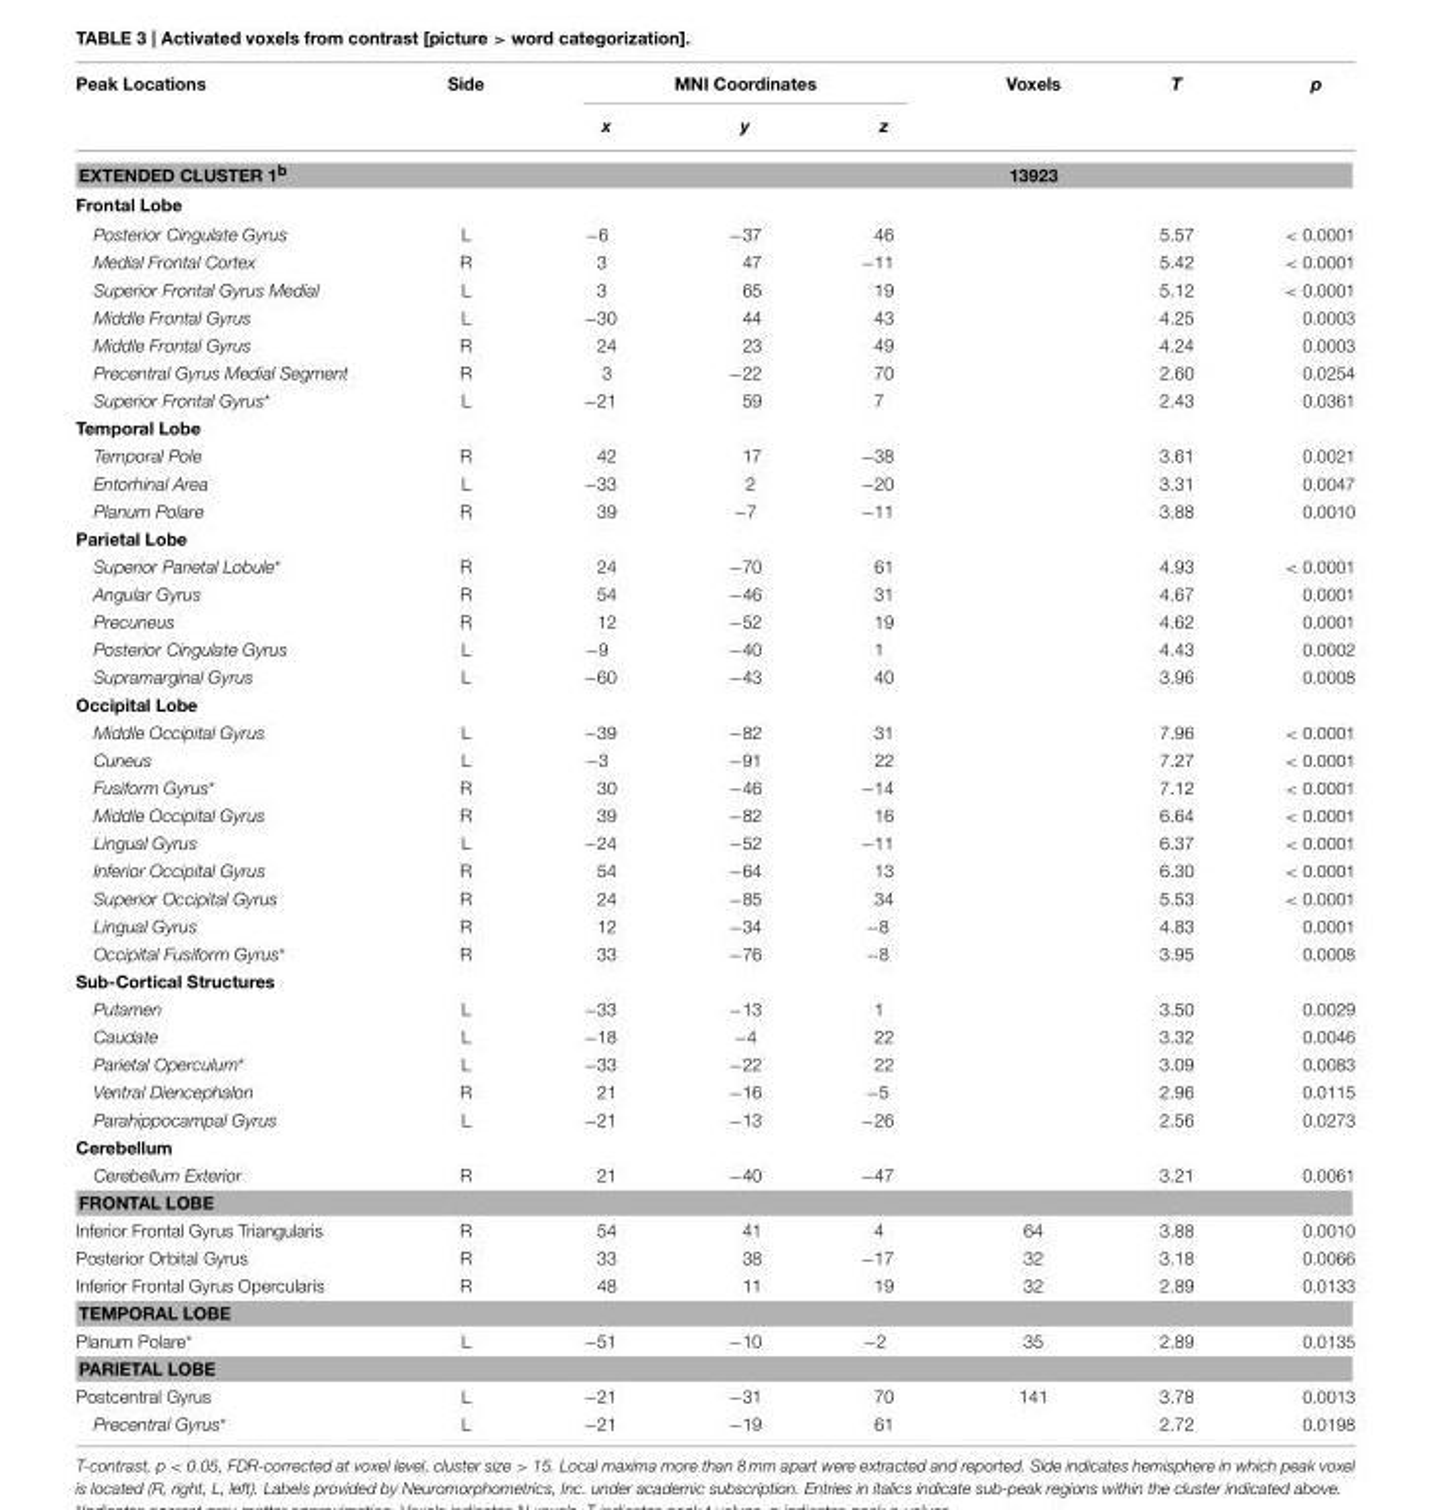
<table><thead><tr><td rowspan="2">Peak Locations</td><td rowspan="2">Side</td><td colspan="3">MNI Coordinates</td><td rowspan="2">Voxels</td><td rowspan="2">T</td><td rowspan="2">p</td></tr><tr><td>x</td><td>y</td><td>z</td></tr></thead><tbody><tr><td colspan="5">EXTENDED CLUSTER 1<sup>b</sup></td><td>13923</td><td></td><td></td></tr><tr><td colspan="8">Frontal Lobe</td></tr><tr><td>Posterior Cingulate Gyrus</td><td>L</td><td>−6</td><td>−37</td><td>46</td><td></td><td>5.57</td><td>&lt; 0.0001</td></tr><tr><td>Medial Frontal Cortex</td><td>R</td><td>3</td><td>47</td><td>−11</td><td></td><td>5.42</td><td>&lt; 0.0001</td></tr><tr><td>Superior Frontal Gyrus Medial</td><td>L</td><td>3</td><td>65</td><td>19</td><td></td><td>5.12</td><td>&lt; 0.0001</td></tr><tr><td>Middle Frontal Gyrus</td><td>L</td><td>−30</td><td>44</td><td>43</td><td></td><td>4.25</td><td>0.0003</td></tr><tr><td>Middle Frontal Gyrus</td><td>R</td><td>24</td><td>23</td><td>49</td><td></td><td>4.24</td><td>0.0003</td></tr><tr><td>Precentral Gyrus Medial Segment</td><td>R</td><td>3</td><td>−22</td><td>70</td><td></td><td>2.60</td><td>0.0254</td></tr><tr><td>Superior Frontal Gyrus*</td><td>L</td><td>−21</td><td>59</td><td>7</td><td></td><td>2.43</td><td>0.0361</td></tr><tr><td colspan="8">Temporal Lobe</td></tr><tr><td>Temporal Pole</td><td>R</td><td>42</td><td>17</td><td>−38</td><td></td><td>3.61</td><td>0.0021</td></tr><tr><td>Entorhinal Area</td><td>L</td><td>−33</td><td>2</td><td>−20</td><td></td><td>3.31</td><td>0.0047</td></tr><tr><td>Planum Polare</td><td>R</td><td>39</td><td>−7</td><td>−11</td><td></td><td>3.88</td><td>0.0010</td></tr><tr><td colspan="8">Parietal Lobe</td></tr><tr><td>Superior Parietal Lobule*</td><td>R</td><td>24</td><td>−70</td><td>61</td><td></td><td>4.93</td><td>&lt; 0.0001</td></tr><tr><td>Angular Gyrus</td><td>R</td><td>54</td><td>−46</td><td>31</td><td></td><td>4.67</td><td>0.0001</td></tr><tr><td>Precuneus</td><td>R</td><td>12</td><td>−52</td><td>19</td><td></td><td>4.62</td><td>0.0001</td></tr><tr><td>Posterior Cingulate Gyrus</td><td>L</td><td>−9</td><td>−40</td><td>1</td><td></td><td>4.43</td><td>0.0002</td></tr><tr><td>Supramarginal Gyrus</td><td>L</td><td>−60</td><td>−43</td><td>40</td><td></td><td>3.96</td><td>0.0008</td></tr><tr><td colspan="8">Occipital Lobe</td></tr><tr><td>Middle Occipital Gyrus</td><td>L</td><td>−39</td><td>−82</td><td>31</td><td></td><td>7.96</td><td>&lt; 0.0001</td></tr><tr><td>Cuneus</td><td>L</td><td>−3</td><td>−91</td><td>22</td><td></td><td>7.27</td><td>&lt; 0.0001</td></tr><tr><td>Fusiform Gyrus*</td><td>R</td><td>30</td><td>−46</td><td>−14</td><td></td><td>7.12</td><td>&lt; 0.0001</td></tr><tr><td>Middle Occipital Gyrus</td><td>R</td><td>39</td><td>−82</td><td>16</td><td></td><td>6.64</td><td>&lt; 0.0001</td></tr><tr><td>Lingual Gyrus</td><td>L</td><td>−24</td><td>−52</td><td>−11</td><td></td><td>6.37</td><td>&lt; 0.0001</td></tr><tr><td>Inferior Occipital Gyrus</td><td>R</td><td>54</td><td>−64</td><td>13</td><td></td><td>6.30</td><td>&lt; 0.0001</td></tr><tr><td>Superior Occipital Gyrus</td><td>R</td><td>24</td><td>−85</td><td>34</td><td></td><td>5.53</td><td>&lt; 0.0001</td></tr><tr><td>Lingual Gyrus</td><td>R</td><td>12</td><td>−34</td><td>−8</td><td></td><td>4.83</td><td>0.0001</td></tr><tr><td>Occipital Fusiform Gyrus*</td><td>R</td><td>33</td><td>−76</td><td>−8</td><td></td><td>3.95</td><td>0.0008</td></tr><tr><td colspan="8">Sub-Cortical Structures</td></tr><tr><td>Putamen</td><td>L</td><td>−33</td><td>−13</td><td>1</td><td></td><td>3.50</td><td>0.0029</td></tr><tr><td>Caudate</td><td>L</td><td>−18</td><td>−4</td><td>22</td><td></td><td>3.32</td><td>0.0046</td></tr><tr><td>Parietal Operculum*</td><td>L</td><td>−33</td><td>−22</td><td>22</td><td></td><td>3.09</td><td>0.0083</td></tr><tr><td>Ventral Diencephalon</td><td>R</td><td>21</td><td>−16</td><td>−5</td><td></td><td>2.96</td><td>0.0115</td></tr><tr><td>Parahippocampal Gyrus</td><td>L</td><td>−21</td><td>−13</td><td>−26</td><td></td><td>2.56</td><td>0.0273</td></tr><tr><td colspan="8">Cerebellum</td></tr><tr><td>Cerebellum Exterior</td><td>R</td><td>21</td><td>−40</td><td>−47</td><td></td><td>3.21</td><td>0.0061</td></tr><tr><td colspan="8">FRONTAL LOBE</td></tr><tr><td>Inferior Frontal Gyrus Triangularis</td><td>R</td><td>54</td><td>41</td><td>4</td><td>64</td><td>3.88</td><td>0.0010</td></tr><tr><td>Posterior Orbital Gyrus</td><td>R</td><td>33</td><td>38</td><td>−17</td><td>32</td><td>3.18</td><td>0.0066</td></tr><tr><td>Inferior Frontal Gyrus Opercularis</td><td>R</td><td>48</td><td>11</td><td>19</td><td>32</td><td>2.89</td><td>0.0133</td></tr><tr><td colspan="8">TEMPORAL LOBE</td></tr><tr><td>Planum Polare*</td><td>L</td><td>−51</td><td>−10</td><td>−2</td><td>35</td><td>2.89</td><td>0.0135</td></tr><tr><td colspan="8">PARIETAL LOBE</td></tr><tr><td>Postcentral Gyrus</td><td>L</td><td>−21</td><td>−31</td><td>70</td><td>141</td><td>3.78</td><td>0.0013</td></tr><tr><td>Precentral Gyrus*</td><td>L</td><td>−21</td><td>−19</td><td>61</td><td></td><td>2.72</td><td>0.0198</td></tr></tbody></table>